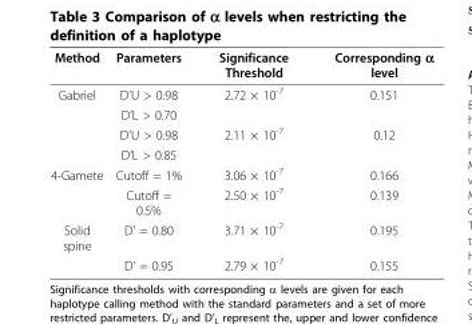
<table><thead><tr><td>Method</td><td>Parameters</td><td>Significance Threshold</td><td>Corresponding level</td></tr></thead><tbody><tr><td rowspan="4">Gabriel</td><td>D’U &gt; 0.98</td><td>2.72 × 10<sup>-7</sup></td><td>0.151</td></tr><tr><td>D’L &gt; 0.70</td><td></td><td></td></tr><tr><td>D’U &gt; 0.98</td><td>2.11 × 10<sup>-7</sup></td><td>0.12</td></tr><tr><td>D’L &gt; 0.85</td><td></td><td></td></tr><tr><td rowspan="2">4-Gamete</td><td>Cutoff = 1%</td><td>3.06 × 10<sup>-7</sup></td><td>0.166</td></tr><tr><td>Cutoff = 0.5%</td><td>2.50 × 10<sup>-7</sup></td><td>0.139</td></tr><tr><td rowspan="2">Solid spine</td><td>D’ = 0.80</td><td>3.71 × 10<sup>-7</sup></td><td>0.195</td></tr><tr><td>D’ = 0.95</td><td>2.79 × 10<sup>-7</sup></td><td>0.155</td></tr></tbody></table>